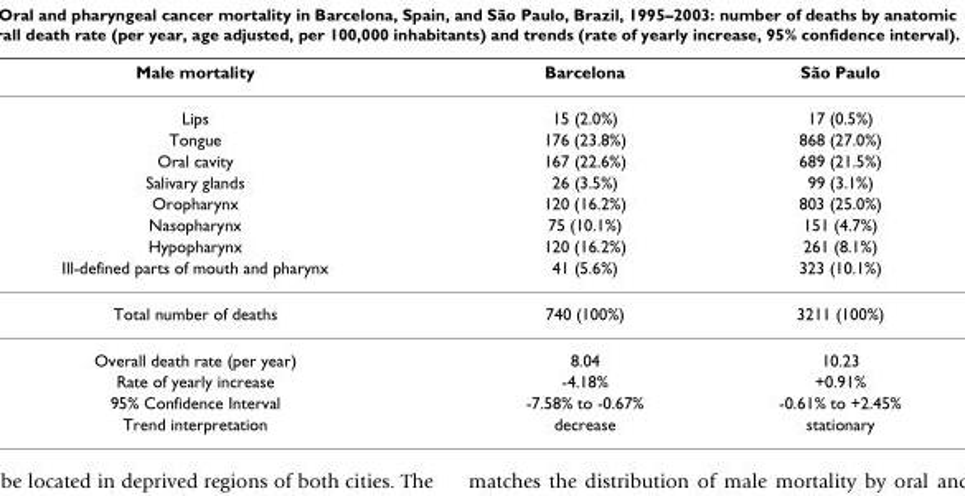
<table><thead><tr><td>Male mortality</td><td>Barcelona</td><td>São Paulo</td></tr></thead><tbody><tr><td>Lips</td><td>15 (2.0%)</td><td>17 (0.5%)</td></tr><tr><td>Tongue</td><td>176 (23.8%)</td><td>868 (27.0%)</td></tr><tr><td>Oral cavity</td><td>167 (22.6%)</td><td>689 (21.5%)</td></tr><tr><td>Salivary glands</td><td>26 (3.5%)</td><td>99 (3.1%)</td></tr><tr><td>Oropharynx</td><td>120 (16.2%)</td><td>803 (25.0%)</td></tr><tr><td>Nasopharynx</td><td>75 (10.1%)</td><td>151 (4.7%)</td></tr><tr><td>Hypopharynx</td><td>120 (16.2%)</td><td>261 (8.1%)</td></tr><tr><td>Ill-defined parts of mouth and pharynx</td><td>41 (5.6%)</td><td>323 (10.1%)</td></tr><tr><td>Total number of deaths</td><td>740 (100%)</td><td>3211 (100%)</td></tr><tr><td>Overall death rate (per year)</td><td>8.04</td><td>10.23</td></tr><tr><td>Rate of yearly increase</td><td>-4.18%</td><td>+0.91%</td></tr><tr><td>95% Confidence Interval</td><td>-7.58% to -0.67%</td><td>-0.61% to +2.45%</td></tr><tr><td>Trend interpretation</td><td>decrease</td><td>stationary</td></tr></tbody></table>